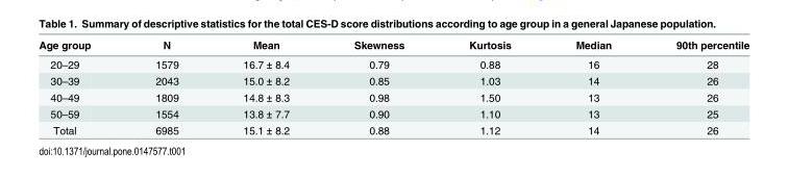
<table><thead><tr><td>Age group</td><td>N</td><td>Mean</td><td>Skewness</td><td>Kurtosis</td><td>Median</td><td>90th percentile</td></tr></thead><tbody><tr><td>20–29</td><td>1579</td><td>16.7 ± 8.4</td><td>0.79</td><td>0.88</td><td>16</td><td>28</td></tr><tr><td>30–39</td><td>2043</td><td>15.0 ± 8.2</td><td>0.85</td><td>1.03</td><td>14</td><td>26</td></tr><tr><td>40–49</td><td>1809</td><td>14.8 ± 8.3</td><td>0.98</td><td>1.50</td><td>13</td><td>26</td></tr><tr><td>50–59</td><td>1554</td><td>13.8 ± 7.7</td><td>0.90</td><td>1.10</td><td>13</td><td>25</td></tr><tr><td>Total</td><td>6985</td><td>15.1 ± 8.2</td><td>0.88</td><td>1.12</td><td>14</td><td>26</td></tr></tbody></table>